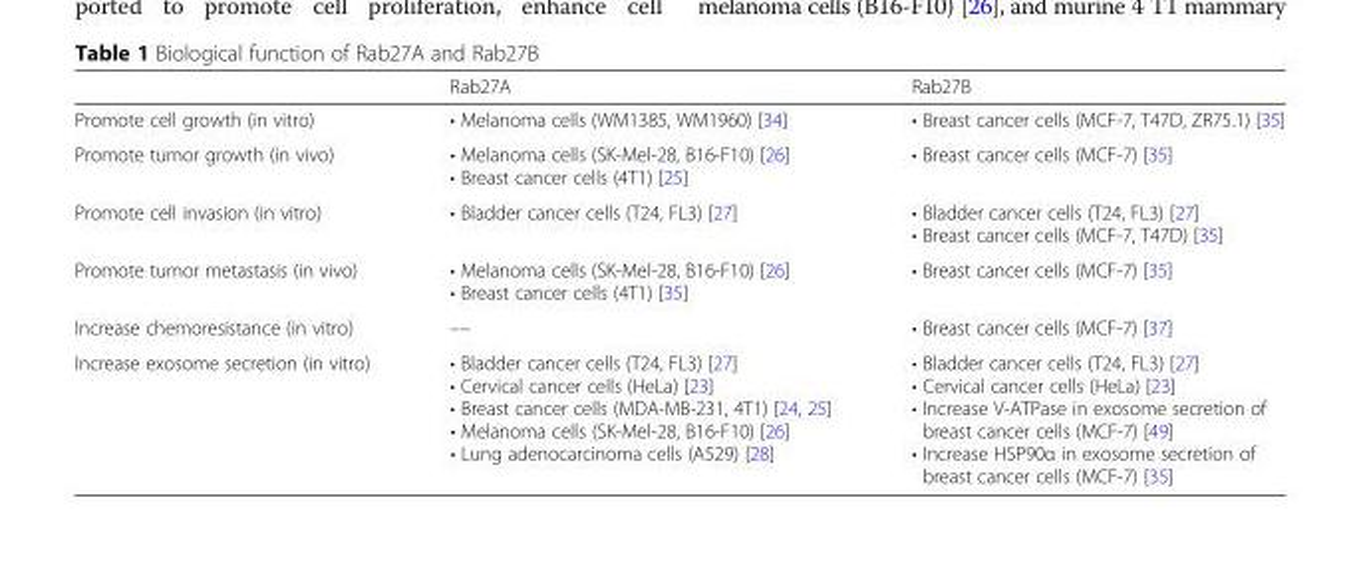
<table><thead><tr><td></td><td>Rab27A</td><td>Rab27B</td></tr></thead><tbody><tr><td>Promote cell growth (in vitro)</td><td>• Melanoma cells (WM1385, WM1960) [34]</td><td>• Breast cancer cells (MCF-7, T47D, ZR75.1) [35]</td></tr><tr><td>Promote tumor growth (in vivo)</td><td>• Melanoma cells (SK-Mel-28, B16-F10) [26] • Breast cancer cells (4T1) [25]</td><td>• Breast cancer cells (MCF-7) [35]</td></tr><tr><td>Promote cell invasion (in vitro)</td><td>• Bladder cancer cells (T24, FL3) [27]</td><td>• Bladder cancer cells (T24, FL3) [27] • Breast cancer cells (MCF-7, T47D) [35]</td></tr><tr><td>Promote tumor metastasis (in vivo)</td><td>• Melanoma cells (SK-Mel-28, B16-F10) [26] • Breast cancer cells (4T1) [35]</td><td>• Breast cancer cells (MCF-7) [35]</td></tr><tr><td>Increase chemoresistance (in vitro)</td><td>––</td><td>• Breast cancer cells (MCF-7) [37]</td></tr><tr><td>Increase exosome secretion (in vitro)</td><td>• Bladder cancer cells (T24, FL3) [27] • Cervical cancer cells (HeLa) [23] • Breast cancer cells (MDA-MB-231, 4T1) [24, 25] • Melanoma cells (SK-Mel-28, B16-F10) [26] • Lung adenocarcinoma cells (A529) [28]</td><td>• Bladder cancer cells (T24, FL3) [27] • Cervical cancer cells (HeLa) [23] • Increase V-ATPase in exosome secretion of breast cancer cells (MCF-7) [49] • Increase HSP90α in exosome secretion of breast cancer cells (MCF-7) [35]</td></tr></tbody></table>